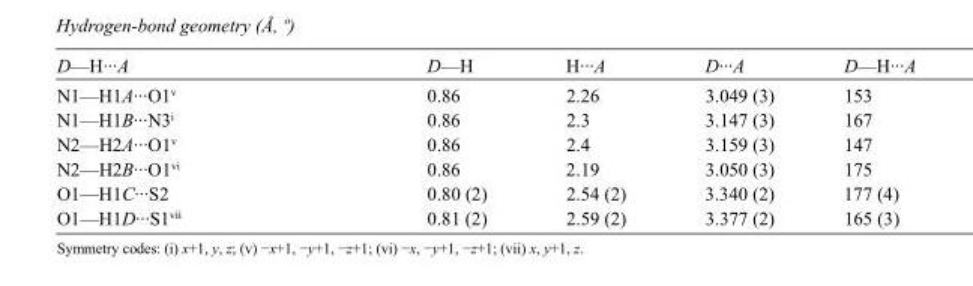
<table><tbody><tr><td>D—H···A</td><td>D—H</td><td>H···A</td><td>D···A</td><td>D—H···A</td></tr><tr><td>N1—H1A···O1<sup>v</sup></td><td>0.86</td><td>2.26</td><td>3.049 (3)</td><td>153</td></tr><tr><td>N1—H1B···N3<sup>i</sup></td><td>0.86</td><td>2.3</td><td>3.147 (3)</td><td>167</td></tr><tr><td>N2—H2A···O1<sup>v</sup></td><td>0.86</td><td>2.4</td><td>3.159 (3)</td><td>147</td></tr><tr><td>N2—H2B···O1<sup>vi</sup></td><td>0.86</td><td>2.19</td><td>3.050 (3)</td><td>175</td></tr><tr><td>O1—H1C···S2</td><td>0.80 (2)</td><td>2.54 (2)</td><td>3.340 (2)</td><td>177 (4)</td></tr><tr><td>O1—H1D···S1<sup>vii</sup></td><td>0.81 (2)</td><td>2.59 (2)</td><td>3.377 (2)</td><td>165 (3)</td></tr></tbody></table>